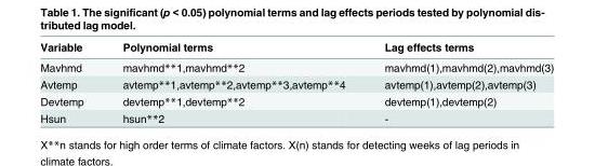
<table><thead><tr><td>Variable</td><td>Polynomial terms</td><td>Lag effects terms</td></tr></thead><tbody><tr><td>Mavhmd</td><td>mavhmd**1,mavhmd**2</td><td>mavhmd(1),mavhmd(2),mavhmd(3)</td></tr><tr><td>Avtemp</td><td>avtemp**1,avtemp**2,avtemp**3,avtemp**4</td><td>avtemp(1),avtemp(2),avtemp(3)</td></tr><tr><td>Devtemp</td><td>devtemp**1,devtemp**2</td><td>devtemp(1),devtemp(2)</td></tr><tr><td>Hsun</td><td>hsun**2</td><td>-</td></tr></tbody></table>